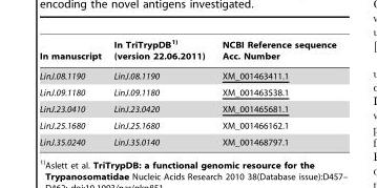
<table><thead><tr><td>In manuscript</td><td>In TriTrypDB1) (version 22.06.2011)</td><td>NCBI Reference sequence Acc. Number</td></tr></thead><tbody><tr><td>LinJ.08.1190</td><td>LinJ.08.1190</td><td>XM_001463411.1</td></tr><tr><td>LinJ.09.1180</td><td>LinJ.09.1180</td><td>XM_001463538.1</td></tr><tr><td>LinJ.23.0410</td><td>LinJ.23.0420</td><td>XM_001465681.1</td></tr><tr><td>LinJ.25.1680</td><td>LinJ.25.1680</td><td>XM_001466162.1</td></tr><tr><td>LinJ.35.0240</td><td>LinJ.35.0140</td><td>XM_001468797.1</td></tr></tbody></table>